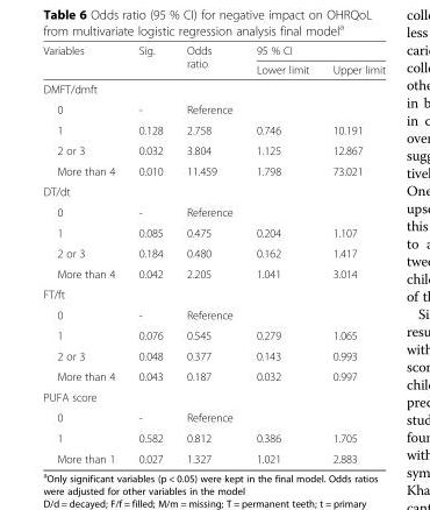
<table><thead><tr><td rowspan="2">Variables</td><td rowspan="2">Sig.</td><td rowspan="2">Odds ratio</td><td colspan="2">95 % CI</td></tr><tr><td>Lower limit</td><td>Upper limit</td></tr></thead><tbody><tr><td colspan="5">DMFT/dmft</td></tr><tr><td>0</td><td>-</td><td>Reference</td><td></td><td></td></tr><tr><td>1</td><td>0.128</td><td>2.758</td><td>0.746</td><td>10.191</td></tr><tr><td>2 or 3</td><td>0.032</td><td>3.804</td><td>1.125</td><td>12.867</td></tr><tr><td>More than 4</td><td>0.010</td><td>11.459</td><td>1.798</td><td>73.021</td></tr><tr><td colspan="5">DT/dt</td></tr><tr><td>0</td><td>-</td><td>Reference</td><td></td><td></td></tr><tr><td>1</td><td>0.085</td><td>0.475</td><td>0.204</td><td>1.107</td></tr><tr><td>2 or 3</td><td>0.184</td><td>0.480</td><td>0.162</td><td>1.417</td></tr><tr><td>More than 4</td><td>0.042</td><td>2.205</td><td>1.041</td><td>3.014</td></tr><tr><td colspan="5">FT/ft</td></tr><tr><td>0</td><td>-</td><td>Reference</td><td></td><td></td></tr><tr><td>1</td><td>0.076</td><td>0.545</td><td>0.279</td><td>1.065</td></tr><tr><td>2 or 3</td><td>0.048</td><td>0.377</td><td>0.143</td><td>0.993</td></tr><tr><td>More than 4</td><td>0.043</td><td>0.187</td><td>0.032</td><td>0.997</td></tr><tr><td colspan="5">PUFA score</td></tr><tr><td>0</td><td>-</td><td>Reference</td><td></td><td></td></tr><tr><td>1</td><td>0.582</td><td>0.812</td><td>0.386</td><td>1.705</td></tr><tr><td>More than 1</td><td>0.027</td><td>1.327</td><td>1.021</td><td>2.883</td></tr></tbody></table>